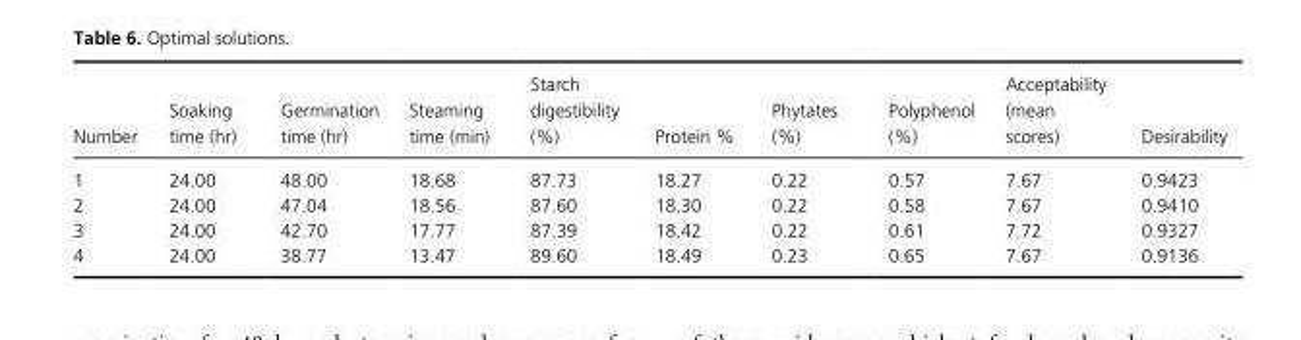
<table><thead><tr><td>Number</td><td>Soaking time (hr)</td><td>Germination time (hr)</td><td>Steaming time (min)</td><td>Starch digestibility (%)</td><td>Protein %</td><td>Phytates (%)</td><td>Polyphenol (%)</td><td>Acceptability (mean scores)</td><td>Desirability</td></tr></thead><tbody><tr><td>1</td><td>24.00</td><td>48.00</td><td>18.68</td><td>87.73</td><td>18.27</td><td>0.22</td><td>0.57</td><td>7.67</td><td>0.9423</td></tr><tr><td>2</td><td>24.00</td><td>47.04</td><td>18.56</td><td>87.60</td><td>18.30</td><td>0.22</td><td>0.58</td><td>7.67</td><td>0.9410</td></tr><tr><td>3</td><td>24.00</td><td>42.70</td><td>17.77</td><td>87.39</td><td>18.42</td><td>0.22</td><td>0.61</td><td>7.72</td><td>0.9327</td></tr><tr><td>4</td><td>24.00</td><td>38.77</td><td>13.47</td><td>89.60</td><td>18.49</td><td>0.23</td><td>0.65</td><td>7.67</td><td>0.9136</td></tr></tbody></table>